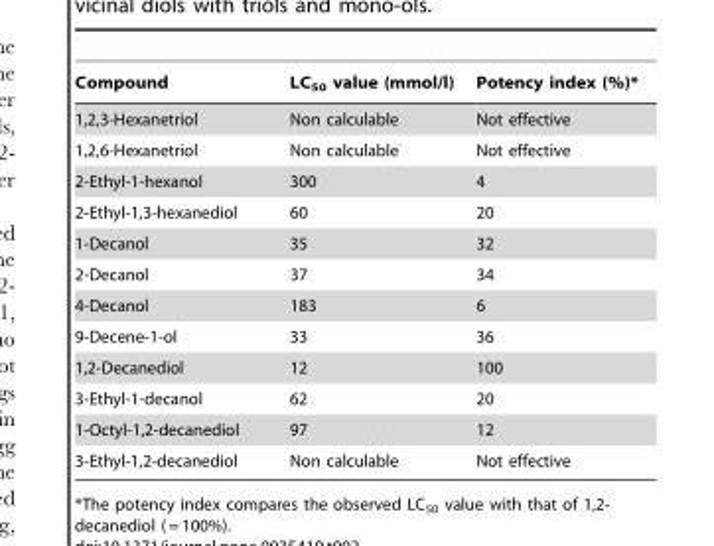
<table><thead><tr><td>Compound</td><td>LC<sub>50</sub> value (mmol/l)</td><td>Potency index (%)*</td></tr></thead><tbody><tr><td>1,2,3-Hexanetriol</td><td>Non calculable</td><td>Not effective</td></tr><tr><td>1,2,6-Hexanetriol</td><td>Non calculable</td><td>Not effective</td></tr><tr><td>2-Ethyl-1-hexanol</td><td>300</td><td>4</td></tr><tr><td>2-Ethyl-1,3-hexanediol</td><td>60</td><td>20</td></tr><tr><td>1-Decanol</td><td>35</td><td>32</td></tr><tr><td>2-Decanol</td><td>37</td><td>34</td></tr><tr><td>4-Decanol</td><td>183</td><td>6</td></tr><tr><td>9-Decene-1-ol</td><td>33</td><td>36</td></tr><tr><td>1,2-Decanediol</td><td>12</td><td>100</td></tr><tr><td>3-Ethyl-1-decanol</td><td>62</td><td>20</td></tr><tr><td>1-Octyl-1,2-decanediol</td><td>97</td><td>12</td></tr><tr><td>3-Ethyl-1,2-decanediol</td><td>Non calculable</td><td>Not effective</td></tr></tbody></table>